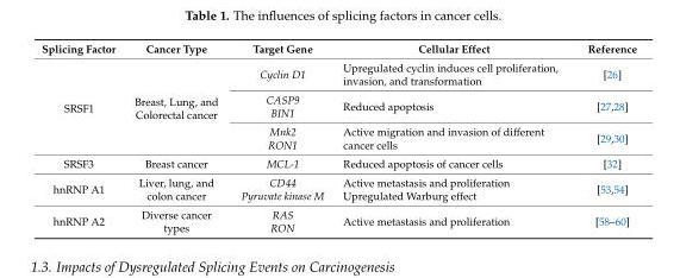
<table><thead><tr><td>Splicing Factor</td><td>Cancer Type</td><td>Target Gene</td><td>Cellular Effect</td><td>Reference</td></tr></thead><tbody><tr><td rowspan="3">SRSF1</td><td rowspan="3">Breast, Lung, and Colorectal cancer</td><td>Cyclin D1</td><td>Upregulated cyclin induces cell proliferation, invasion, and transformation</td><td>[26]</td></tr><tr><td>CASP9 BIN1</td><td>Reduced apoptosis</td><td>[27,28]</td></tr><tr><td>Mnk2 RON1</td><td>Active migration and invasion of different cancer cells</td><td>[29,30]</td></tr><tr><td>SRSF3</td><td>Breast cancer</td><td>MCL-1</td><td>Reduced apoptosis of cancer cells</td><td>[32]</td></tr><tr><td>hnRNP A1</td><td>Liver, lung, and colon cancer</td><td>CD44 Pyruvate kinase M</td><td>Active metastasis and proliferation Upregulated Warburg effect</td><td>[53,54]</td></tr><tr><td>hnRNP A2</td><td>Diverse cancer types</td><td>RAS RON</td><td>Active metastasis and proliferation</td><td>[58–60]</td></tr></tbody></table>